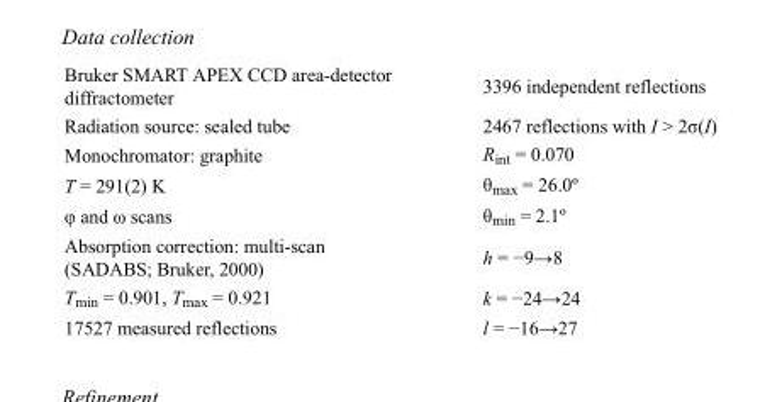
<table><tbody><tr><td>Bruker SMART APEX CCD area-detector diffractometer</td><td>3396 independent reflections</td></tr><tr><td>Radiation source: sealed tube</td><td>2467 reflections with I &gt; 2σ(I)</td></tr><tr><td>Monochromator: graphite</td><td>R<sub>int</sub> = 0.070</td></tr><tr><td>T = 291(2) K</td><td>θ<sub>max</sub> = 26.0º</td></tr><tr><td>φ and ω scans</td><td>θ<sub>min</sub> = 2.1º</td></tr><tr><td>Absorption correction: multi-scan (SADABS; Bruker, 2000)</td><td>h = −9→8</td></tr><tr><td>T<sub>min</sub> = 0.901, T<sub>max</sub> = 0.921</td><td>k = −24→24</td></tr><tr><td>17527 measured reflections</td><td>l = −16→27</td></tr></tbody></table>